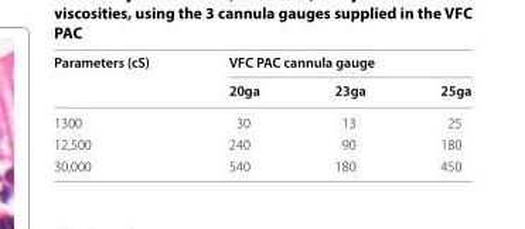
<table><thead><tr><td rowspan="2">Parameters (cS)</td><td colspan="3">VFC PAC cannula gauge</td></tr><tr><td>20ga</td><td>23ga</td><td>25ga</td></tr></thead><tbody><tr><td>1300</td><td>30</td><td>13</td><td>25</td></tr><tr><td>12,500</td><td>240</td><td>90</td><td>180</td></tr><tr><td>30,000</td><td>540</td><td>180</td><td>450</td></tr></tbody></table>